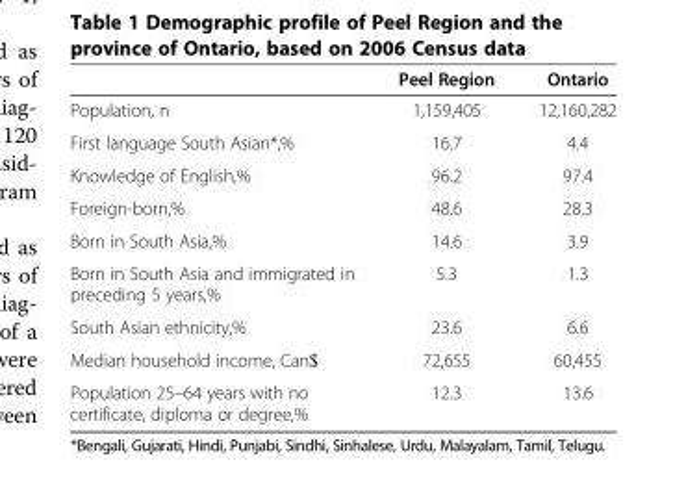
<table><thead><tr><td></td><td>Peel Region</td><td>Ontario</td></tr></thead><tbody><tr><td>Population, n</td><td>1,159,405</td><td>12,160,282</td></tr><tr><td>First language South Asian*,%</td><td>16.7</td><td>4.4</td></tr><tr><td>Knowledge of English,%</td><td>96.2</td><td>97.4</td></tr><tr><td>Foreign-born,%</td><td>48.6</td><td>28.3</td></tr><tr><td>Born in South Asia,%</td><td>14.6</td><td>3.9</td></tr><tr><td>Born in South Asia and immigrated in preceding 5 years,%</td><td>5.3</td><td>1.3</td></tr><tr><td>South Asian ethnicity,%</td><td>23.6</td><td>6.6</td></tr><tr><td>Median household income, Can$</td><td>72,655</td><td>60,455</td></tr><tr><td>Population 25–64 years with no certificate, diploma or degree,%</td><td>12.3</td><td>13.6</td></tr></tbody></table>